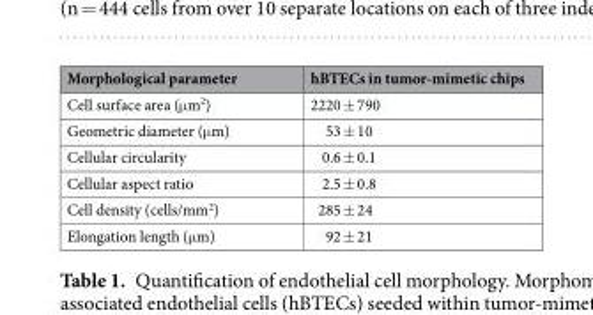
<table><thead><tr><td>Morphological parameter</td><td>hBTECs in tumor-mimetic chips</td></tr></thead><tbody><tr><td>Cell surface area (μm<sup>2</sup>)</td><td>2220 ± 790</td></tr><tr><td>Geometric diameter (μm)</td><td>53 ± 10</td></tr><tr><td>Cellular circularity</td><td>0.6 ± 0.1</td></tr><tr><td>Cellular aspect ratio</td><td>2.5 ± 0.8</td></tr><tr><td>Cell density (cells/mm<sup>2</sup>)</td><td>285 ± 24</td></tr><tr><td>Elongation length (μm)</td><td>92 ± 21</td></tr></tbody></table>